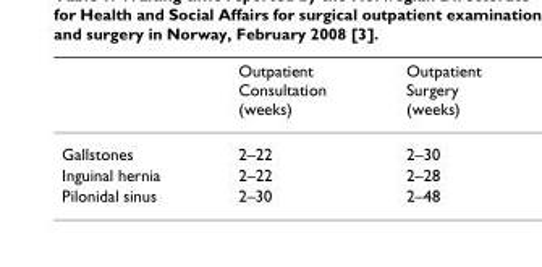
<table><thead><tr><td></td><td>Outpatient Consultation (weeks)</td><td>Outpatient Surgery (weeks)</td></tr></thead><tbody><tr><td>Gallstones</td><td>2–22</td><td>2–30</td></tr><tr><td>Inguinal hernia</td><td>2–22</td><td>2–28</td></tr><tr><td>Pilonidal sinus</td><td>2–30</td><td>2–48</td></tr></tbody></table>